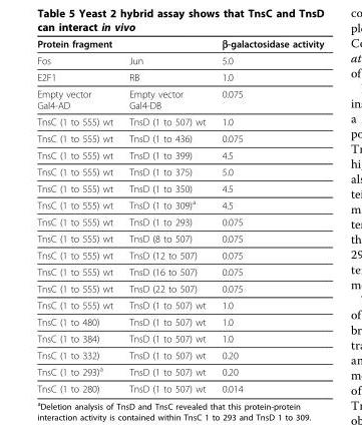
<table><thead><tr><td colspan="2">Protein fragment</td><td rowspan="2">β-galactosidase activity 5.0</td></tr><tr><td>Fos</td><td>Jun</td></tr></thead><tbody><tr><td>E2F1</td><td>RB</td><td>1.0</td></tr><tr><td>Empty vector Gal4-AD</td><td>Empty vector Gal4-DB</td><td>0.075</td></tr><tr><td>TnsC (1 to 555) wt</td><td>TnsD (1 to 507) wt</td><td>1.0</td></tr><tr><td>TnsC (1 to 555) wt</td><td>TnsD (1 to 436)</td><td>0.075</td></tr><tr><td>TnsC (1 to 555) wt</td><td>TnsD (1 to 399)</td><td>4.5</td></tr><tr><td>TnsC (1 to 555) wt</td><td>TnsD (1 to 375)</td><td>5.0</td></tr><tr><td>TnsC (1 to 555) wt</td><td>TnsD (1 to 350)</td><td>4.5</td></tr><tr><td>TnsC (1 to 555) wt</td><td>TnsD (1 to 309)a</td><td>4.5</td></tr><tr><td>TnsC (1 to 555) wt</td><td>TnsD (1 to 293)</td><td>0.075</td></tr><tr><td>TnsC (1 to 555) wt</td><td>TnsD (8 to 507)</td><td>0.075</td></tr><tr><td>TnsC (1 to 555) wt</td><td>TnsD (12 to 507)</td><td>0.075</td></tr><tr><td>TnsC (1 to 555) wt</td><td>TnsD (16 to 507)</td><td>0.075</td></tr><tr><td>TnsC (1 to 555) wt</td><td>TnsD (22 to 507)</td><td>0.075</td></tr><tr><td>TnsC (1 to 555) wt</td><td>TnsD (1 to 507) wt</td><td>1.0</td></tr><tr><td>TnsC (1 to 480)</td><td>TnsD (1 to 507) wt</td><td>1.0</td></tr><tr><td>TnsC (1 to 384)</td><td>TnsD (1 to 507) wt</td><td>1.0</td></tr><tr><td>TnsC (1 to 332)</td><td>TnsD (1 to 507) wt</td><td>0.20</td></tr><tr><td>TnsC (1 to 293)a</td><td>TnsD (1 to 507) wt</td><td>0.20</td></tr><tr><td>TnsC (1 to 280)</td><td>TnsD (1 to 507) wt</td><td>0.014</td></tr></tbody></table>